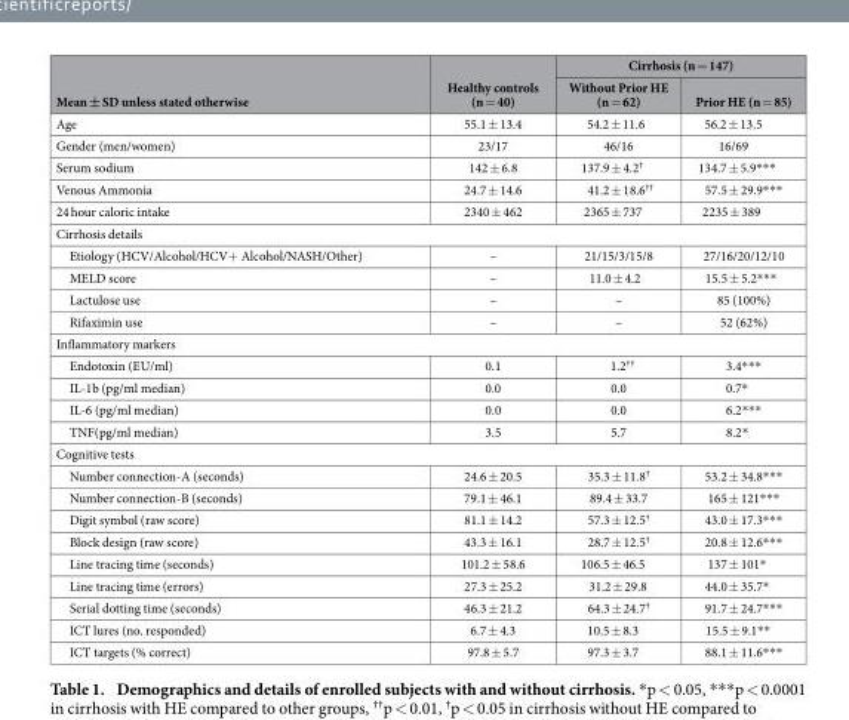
<table><thead><tr><td rowspan="2">Mean ± SD unless stated otherwise</td><td rowspan="2">Healthy controls (n = 40)</td><td colspan="2">Cirrhosis (n = 147)</td></tr><tr><td>Without Prior HE (n = 62)</td><td>Prior HE (n = 85)</td></tr></thead><tbody><tr><td>Age</td><td>55.1 ± 13.4</td><td>54.2 ± 11.6</td><td>56.2 ± 13.5</td></tr><tr><td>Gender (men/women)</td><td>23/17</td><td>46/16</td><td>16/69</td></tr><tr><td>Serum sodium</td><td>142 ± 6.8</td><td>137.9 ± 4.2<sup>†</sup></td><td>134.7 ± 5.9* * *</td></tr><tr><td>Venous Ammonia</td><td>24.7 ± 14.6</td><td>41.2 ± 18.6<sup>††</sup></td><td>57.5 ± 29.9* * *</td></tr><tr><td>24 hour caloric intake</td><td>2340 ± 462</td><td>2365 ± 737</td><td>2235 ± 389</td></tr><tr><td colspan="4">Cirrhosis details</td></tr><tr><td>Etiology (HCV/Alcohol/HCV+ Alcohol/NASH/Other)</td><td>–</td><td>21/15/3/15/8</td><td>27/16/20/12/10</td></tr><tr><td>MELD score</td><td>–</td><td>11.0 ± 4.2</td><td>15.5 ± 5.2* * *</td></tr><tr><td>Lactulose use</td><td>–</td><td>–</td><td>85 (100%)</td></tr><tr><td>Rifaximin use</td><td>–</td><td>–</td><td>52 (62%)</td></tr><tr><td colspan="4">Inflammatory markers</td></tr><tr><td>Endotoxin (EU/ml)</td><td>0.1</td><td>1.2<sup>††</sup></td><td>3.4* * *</td></tr><tr><td>IL-1b (pg/ml median)</td><td>0.0</td><td>0.0</td><td>0.7*</td></tr><tr><td>IL-6 (pg/ml median)</td><td>0.0</td><td>0.0</td><td>6.2* * *</td></tr><tr><td>TNF(pg/ml median)</td><td>3.5</td><td>5.7</td><td>8.2*</td></tr><tr><td colspan="4">Cognitive tests</td></tr><tr><td>Number connection-A (seconds)</td><td>24.6 ± 20.5</td><td>35.3 ± 11.8<sup>†</sup></td><td>53.2 ± 34.8* * *</td></tr><tr><td>Number connection-B (seconds)</td><td>79.1 ± 46.1</td><td>89.4 ± 33.7</td><td>165 ± 121* * *</td></tr><tr><td>Digit symbol (raw score)</td><td>81.1 ± 14.2</td><td>57.3 ± 12.5<sup>†</sup></td><td>43.0 ± 17.3* * *</td></tr><tr><td>Block design (raw score)</td><td>43.3 ± 16.1</td><td>28.7 ± 12.5<sup>†</sup></td><td>20.8 ± 12.6* * *</td></tr><tr><td>Line tracing time (seconds)</td><td>101.2 ± 58.6</td><td>106.5 ± 46.5</td><td>137 ± 101*</td></tr><tr><td>Line tracing time (errors)</td><td>27.3 ± 25.2</td><td>31.2 ± 29.8</td><td>44.0 ± 35.7*</td></tr><tr><td>Serial dotting time (seconds)</td><td>46.3 ± 21.2</td><td>64.3 ± 24.7<sup>†</sup></td><td>91.7 ± 24.7* * *</td></tr><tr><td>ICT lures (no. responded)</td><td>6.7 ± 4.3</td><td>10.5 ± 8.3</td><td>15.5 ± 9.1* *</td></tr><tr><td>ICT targets (% correct)</td><td>97.8 ± 5.7</td><td>97.3 ± 3.7</td><td>88.1 ± 11.6* * *</td></tr></tbody></table>